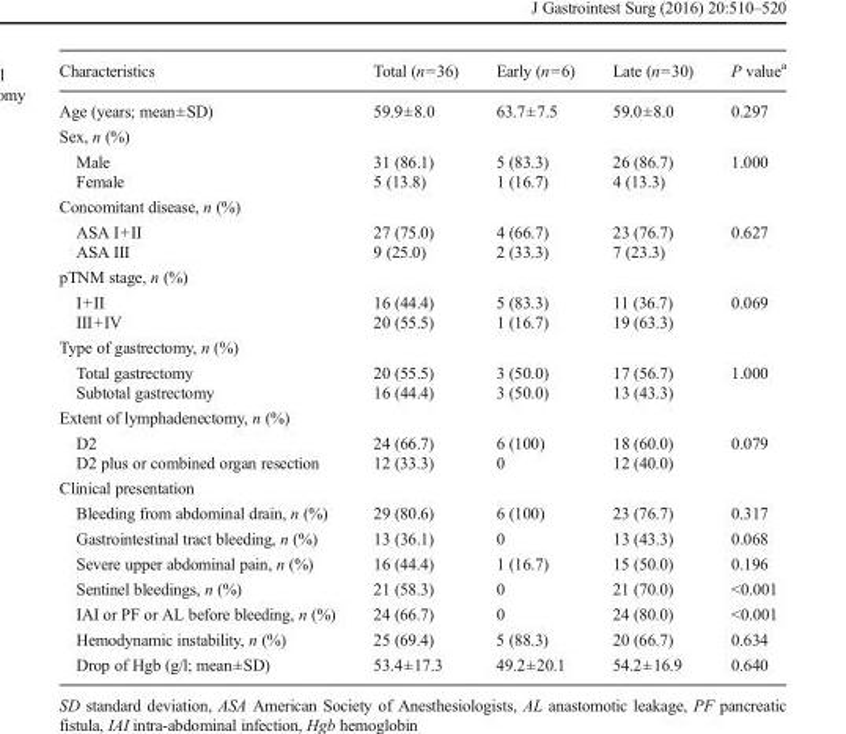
<table><thead><tr><td>Characteristics</td><td>Total (n=36)</td><td>Early (n=6)</td><td>Late (n=30)</td><td>P value<sup>a</sup></td></tr></thead><tbody><tr><td>Age (years; mean±SD)</td><td>59.9±8.0</td><td>63.7±7.5</td><td>59.0±8.0</td><td>0.297</td></tr><tr><td colspan="5">Sex, n (%)</td></tr><tr><td>Male</td><td>31 (86.1)</td><td>5 (83.3)</td><td>26 (86.7)</td><td rowspan="2">1.000</td></tr><tr><td>Female</td><td>5 (13.8)</td><td>1 (16.7)</td><td>4 (13.3)</td></tr><tr><td colspan="5">Concomitant disease, n (%)</td></tr><tr><td>ASA I+II</td><td>27 (75.0)</td><td>4 (66.7)</td><td>23 (76.7)</td><td rowspan="2">0.627</td></tr><tr><td>ASA III</td><td>9 (25.0)</td><td>2 (33.3)</td><td>7 (23.3)</td></tr><tr><td colspan="5">pTNM stage, n (%)</td></tr><tr><td>I+II</td><td>16 (44.4)</td><td>5 (83.3)</td><td>11 (36.7)</td><td rowspan="2">0.069</td></tr><tr><td>III+IV</td><td>20 (55.5)</td><td>1 (16.7)</td><td>19 (63.3)</td></tr><tr><td colspan="5">Type of gastrectomy, n (%)</td></tr><tr><td>Total gastrectomy</td><td>20 (55.5)</td><td>3 (50.0)</td><td>17 (56.7)</td><td rowspan="2">1.000</td></tr><tr><td>Subtotal gastrectomy</td><td>16 (44.4)</td><td>3 (50.0)</td><td>13 (43.3)</td></tr><tr><td colspan="5">Extent of lymphadenectomy, n (%)</td></tr><tr><td>D2</td><td>24 (66.7)</td><td>6 (100)</td><td>18 (60.0)</td><td rowspan="2">0.079</td></tr><tr><td>D2 plus or combined organ resection</td><td>12 (33.3)</td><td>0</td><td>12 (40.0)</td></tr><tr><td colspan="5">Clinical presentation</td></tr><tr><td>Bleeding from abdominal drain, n (%)</td><td>29 (80.6)</td><td>6 (100)</td><td>23 (76.7)</td><td>0.317</td></tr><tr><td>Gastrointestinal tract bleeding, n (%)</td><td>13 (36.1)</td><td>0</td><td>13 (43.3)</td><td>0.068</td></tr><tr><td>Severe upper abdominal pain, n (%)</td><td>16 (44.4)</td><td>1 (16.7)</td><td>15 (50.0)</td><td>0.196</td></tr><tr><td>Sentinel bleedings, n (%)</td><td>21 (58.3)</td><td>0</td><td>21 (70.0)</td><td>&lt;0.001</td></tr><tr><td>IAI or PF or AL before bleeding, n (%)</td><td>24 (66.7)</td><td>0</td><td>24 (80.0)</td><td>&lt;0.001</td></tr><tr><td>Hemodynamic instability, n (%)</td><td>25 (69.4)</td><td>5 (88.3)</td><td>20 (66.7)</td><td>0.634</td></tr><tr><td>Drop of Hgb (g/l; mean±SD)</td><td>53.4±17.3</td><td>49.2±20.1</td><td>54.2±16.9</td><td>0.640</td></tr></tbody></table>